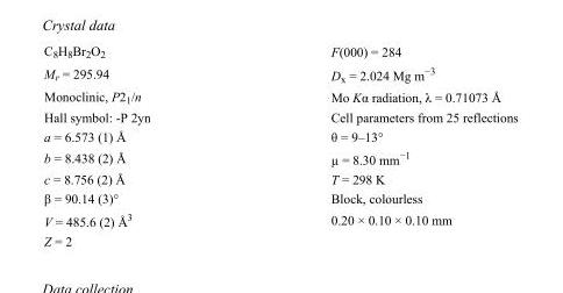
<table><tbody><tr><td>C<sub>8</sub>H<sub>8</sub>Br<sub>2</sub>O<sub>2</sub></td><td>F(000) = 284</td></tr><tr><td>M<sub>r</sub> = 295.94</td><td>D<sub>x</sub> = 2.024 Mg m<sup>−3</sup></td></tr><tr><td>Monoclinic, P2<sub>1</sub>/n</td><td>Mo Kα radiation, λ = 0.71073 Å</td></tr><tr><td>Hall symbol: -P 2yn</td><td>Cell parameters from 25 reflections</td></tr><tr><td>a = 6.573 (1) Å</td><td>θ = 9–13°</td></tr><tr><td>b = 8.438 (2) Å</td><td>µ = 8.30 mm<sup>−1</sup></td></tr><tr><td>c = 8.756 (2) Å</td><td>T = 298 K</td></tr><tr><td>β = 90.14 (3)°</td><td>Block, colourless</td></tr><tr><td>V = 485.6 (2) Å<sup>3</sup></td><td>0.20 × 0.10 × 0.10 mm</td></tr><tr><td>Z = 2</td><td></td></tr></tbody></table>